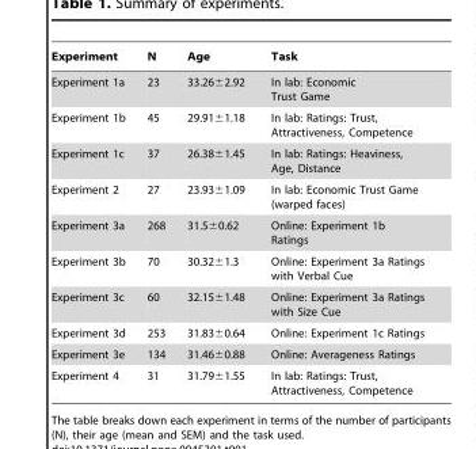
<table><thead><tr><td>Experiment</td><td>N</td><td>Age</td><td>Task</td></tr></thead><tbody><tr><td>Experiment 1a</td><td>23</td><td>33.26±2.92</td><td>In lab: Economic Trust Game</td></tr><tr><td>Experiment 1b</td><td>45</td><td>29.91±1.18</td><td>In lab: Ratings: Trust, Attractiveness, Competence</td></tr><tr><td>Experiment 1c</td><td>37</td><td>26.38±1.45</td><td>In lab: Ratings: Heaviness, Age, Distance</td></tr><tr><td>Experiment 2</td><td>27</td><td>23.93±1.09</td><td>In lab: Economic Trust Game (warped faces)</td></tr><tr><td>Experiment 3a</td><td>268</td><td>31.5±0.62</td><td>Online: Experiment 1b Ratings</td></tr><tr><td>Experiment 3b</td><td>70</td><td>30.32±1.3</td><td>Online: Experiment 3a Ratings with Verbal Cue</td></tr><tr><td>Experiment 3c</td><td>60</td><td>32.15±1.48</td><td>Online: Experiment 3a Ratings with Size Cue</td></tr><tr><td>Experiment 3d</td><td>253</td><td>31.83±0.64</td><td>Online: Experiment 1c Ratings</td></tr><tr><td>Experiment 3e</td><td>134</td><td>31.46±0.88</td><td>Online: Averageness Ratings</td></tr><tr><td>Experiment 4</td><td>31</td><td>31.79±1.55</td><td>In lab: Ratings: Trust, Attractiveness, Competence</td></tr></tbody></table>